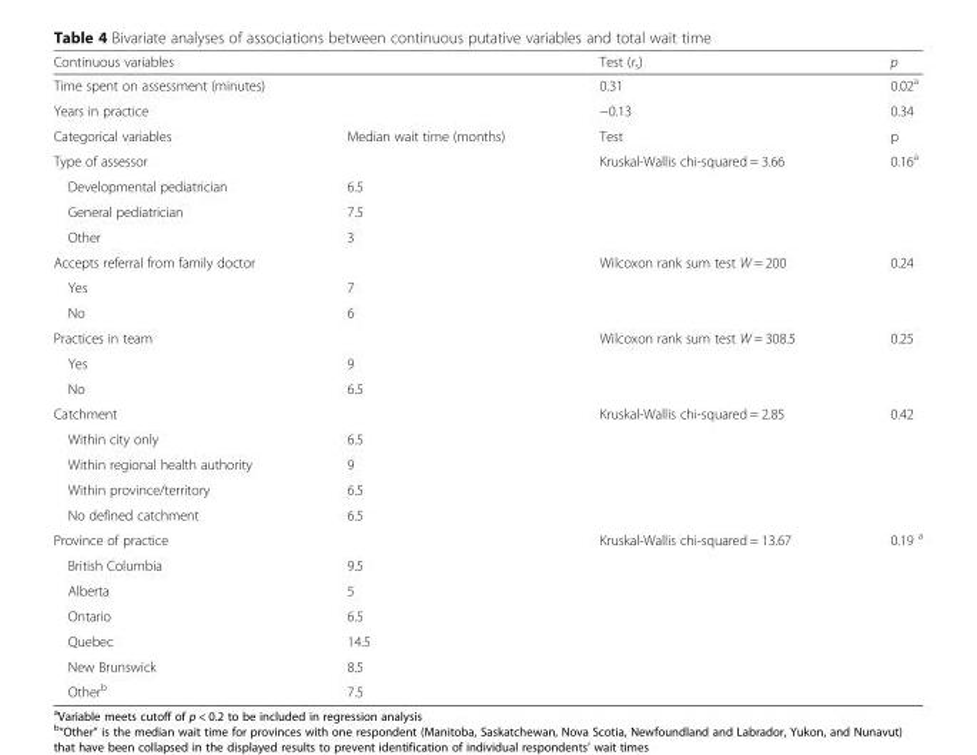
<table><thead><tr><td rowspan="3" colspan="2">Continuous variables Time spent on assessment (minutes) Years in practice</td><td rowspan="4">Test (r<sub>s</sub>) 0.31 −0.13 Test</td><td rowspan="4">p 0.02a 0.34 p</td></tr><tr></tr><tr></tr><tr><td>Categorical variables</td><td>Median wait time (months)</td></tr></thead><tbody><tr><td colspan="2">Type of assessor</td><td rowspan="4">Kruskal-Wallis chi-squared = 3.66</td><td rowspan="4">0.16<sup>a</sup></td></tr><tr><td>Developmental pediatrician</td><td>6.5</td></tr><tr><td>General pediatrician</td><td>7.5</td></tr><tr><td>Other</td><td>3</td></tr><tr><td colspan="2">Accepts referral from family doctor</td><td rowspan="3">Wilcoxon rank sum test W = 200</td><td rowspan="3">0.24</td></tr><tr><td>Yes</td><td>7</td></tr><tr><td>No</td><td>6</td></tr><tr><td colspan="2">Practices in team</td><td rowspan="3">Wilcoxon rank sum test W = 308.5</td><td rowspan="3">0.25</td></tr><tr><td>Yes</td><td>9</td></tr><tr><td>No</td><td>6.5</td></tr><tr><td colspan="2">Catchment</td><td rowspan="5">Kruskal-Wallis chi-squared = 2.85</td><td rowspan="5">0.42</td></tr><tr><td>Within city only</td><td>6.5</td></tr><tr><td>Within regional health authority</td><td>9</td></tr><tr><td>Within province/territory</td><td>6.5</td></tr><tr><td>No defined catchment</td><td>6.5</td></tr><tr><td colspan="2">Province of practice</td><td rowspan="7">Kruskal-Wallis chi-squared = 13.67</td><td rowspan="7">0.19 <sup>a</sup></td></tr><tr><td>British Columbia</td><td>9.5</td></tr><tr><td>Alberta</td><td>5</td></tr><tr><td>Ontario</td><td>6.5</td></tr><tr><td>Quebec</td><td>14.5</td></tr><tr><td>New Brunswick</td><td>8.5</td></tr><tr><td>Other<sup>b</sup></td><td>7.5</td></tr></tbody></table>